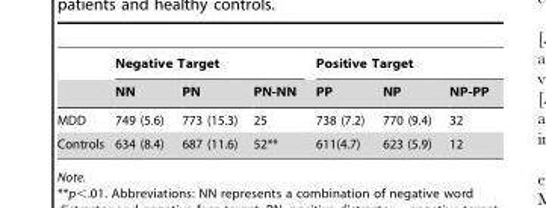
<table><thead><tr><td rowspan="2"></td><td colspan="3">Negative Target</td><td colspan="3">Positive Target</td></tr><tr><td>NN</td><td>PN</td><td>PN-NN</td><td>PP</td><td>NP</td><td>NP-PP</td></tr></thead><tbody><tr><td>MDD</td><td>749 (5.6)</td><td>773 (15.3)</td><td>25</td><td>738 (7.2)</td><td>770 (9.4)</td><td>32</td></tr><tr><td>Controls</td><td>634 (8.4)</td><td>687 (11.6)</td><td>52**</td><td>611(4.7)</td><td>623 (5.9)</td><td>12</td></tr></tbody></table>